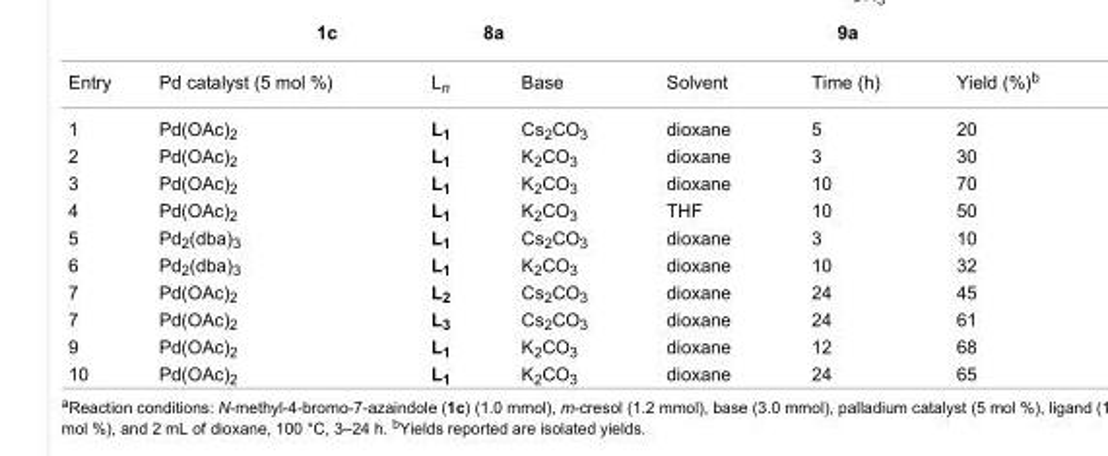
<table><tbody><tr><td>Entry</td><td>Pd catalyst (5 mol %)</td><td>L<sub>n</sub></td><td>Base</td><td>Solvent</td><td>Time (h)</td><td>Yield (%)<sup>b</sup></td></tr><tr><td>1</td><td>Pd(OAc)<sub>2</sub></td><td>L<sub>1</sub></td><td>Cs<sub>2</sub>CO<sub>3</sub></td><td>dioxane</td><td>5</td><td>20</td></tr><tr><td>2</td><td>Pd(OAc)<sub>2</sub></td><td>L<sub>1</sub></td><td>K<sub>2</sub>CO<sub>3</sub></td><td>dioxane</td><td>3</td><td>30</td></tr><tr><td>3</td><td>Pd(OAc)<sub>2</sub></td><td>L<sub>1</sub></td><td>K<sub>2</sub>CO<sub>3</sub></td><td>dioxane</td><td>10</td><td>70</td></tr><tr><td>4</td><td>Pd(OAc)<sub>2</sub></td><td>L<sub>1</sub></td><td>K<sub>2</sub>CO<sub>3</sub></td><td>THF</td><td>10</td><td>50</td></tr><tr><td>5</td><td>Pd<sub>2</sub>(dba)<sub>3</sub></td><td>L<sub>1</sub></td><td>Cs<sub>2</sub>CO<sub>3</sub></td><td>dioxane</td><td>3</td><td>10</td></tr><tr><td>6</td><td>Pd<sub>2</sub>(dba)<sub>3</sub></td><td>L<sub>1</sub></td><td>K<sub>2</sub>CO<sub>3</sub></td><td>dioxane</td><td>10</td><td>32</td></tr><tr><td>7</td><td>Pd(OAc)<sub>2</sub></td><td>L<sub>2</sub></td><td>Cs<sub>2</sub>CO<sub>3</sub></td><td>dioxane</td><td>24</td><td>45</td></tr><tr><td>7</td><td>Pd(OAc)<sub>2</sub></td><td>L<sub>3</sub></td><td>Cs<sub>2</sub>CO<sub>3</sub></td><td>dioxane</td><td>24</td><td>61</td></tr><tr><td>9</td><td>Pd(OAc)<sub>2</sub></td><td>L<sub>1</sub></td><td>K<sub>2</sub>CO<sub>3</sub></td><td>dioxane</td><td>12</td><td>68</td></tr><tr><td>10</td><td>Pd(OAc)<sub>2</sub></td><td>L<sub>1</sub></td><td>K<sub>2</sub>CO<sub>3</sub></td><td>dioxane</td><td>24</td><td>65</td></tr></tbody></table>